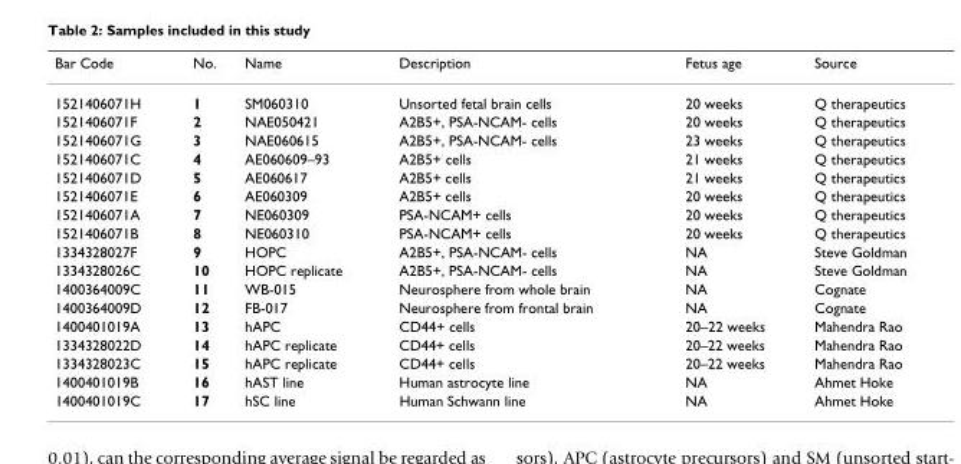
<table><thead><tr><td>Bar Code</td><td>No.</td><td>Name</td><td>Description</td><td>Fetus age</td><td>Source</td></tr></thead><tbody><tr><td>1521406071H</td><td>1</td><td>SM060310</td><td>Unsorted fetal brain cells</td><td>20 weeks</td><td>Q therapeutics</td></tr><tr><td>1521406071F</td><td>2</td><td>NAE050421</td><td>A2B5+, PSA-NCAM- cells</td><td>20 weeks</td><td>Q therapeutics</td></tr><tr><td>1521406071G</td><td>3</td><td>NAE060615</td><td>A2B5+, PSA-NCAM- cells</td><td>23 weeks</td><td>Q therapeutics</td></tr><tr><td>1521406071C</td><td>4</td><td>AE060609–93</td><td>A2B5+ cells</td><td>21 weeks</td><td>Q therapeutics</td></tr><tr><td>1521406071D</td><td>5</td><td>AE060617</td><td>A2B5+ cells</td><td>21 weeks</td><td>Q therapeutics</td></tr><tr><td>1521406071E</td><td>6</td><td>AE060309</td><td>A2B5+ cells</td><td>20 weeks</td><td>Q therapeutics</td></tr><tr><td>1521406071A</td><td>7</td><td>NE060309</td><td>PSA-NCAM+ cells</td><td>20 weeks</td><td>Q therapeutics</td></tr><tr><td>1521406071B</td><td>8</td><td>NE060310</td><td>PSA-NCAM+ cells</td><td>20 weeks</td><td>Q therapeutics</td></tr><tr><td>1334328027F</td><td>9</td><td>HOPC</td><td>A2B5+, PSA-NCAM- cells</td><td>NA</td><td>Steve Goldman</td></tr><tr><td>1334328026C</td><td>10</td><td>HOPC replicate</td><td>A2B5+, PSA-NCAM- cells</td><td>NA</td><td>Steve Goldman</td></tr><tr><td>1400364009C</td><td>11</td><td>WB-015</td><td>Neurosphere from whole brain</td><td>NA</td><td>Cognate</td></tr><tr><td>1400364009D</td><td>12</td><td>FB-017</td><td>Neurosphere from frontal brain</td><td>NA</td><td>Cognate</td></tr><tr><td>1400401019A</td><td>13</td><td>hAPC</td><td>CD44+ cells</td><td>20–22 weeks</td><td>Mahendra Rao</td></tr><tr><td>1334328022D</td><td>14</td><td>hAPC replicate</td><td>CD44+ cells</td><td>20–22 weeks</td><td>Mahendra Rao</td></tr><tr><td>1334328023C</td><td>15</td><td>hAPC replicate</td><td>CD44+ cells</td><td>20–22 weeks</td><td>Mahendra Rao</td></tr><tr><td>1400401019B</td><td>16</td><td>hAST line</td><td>Human astrocyte line</td><td>NA</td><td>Ahmet Hoke</td></tr><tr><td>1400401019C</td><td>17</td><td>hSC line</td><td>Human Schwann line</td><td>NA</td><td>Ahmet Hoke</td></tr></tbody></table>